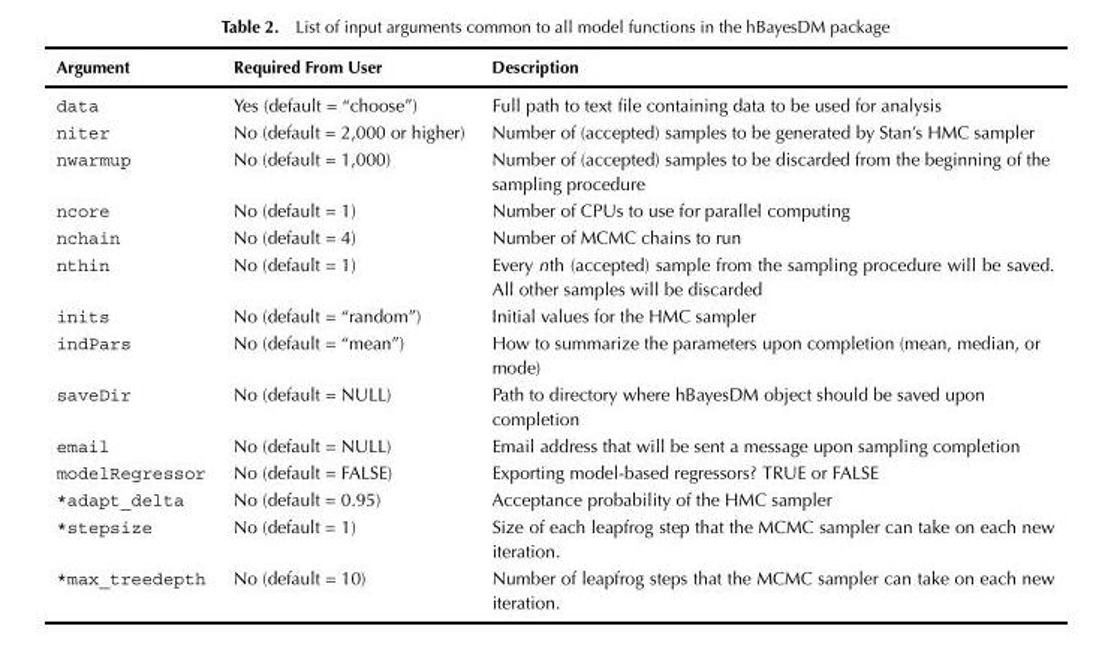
<table><thead><tr><td>Argument</td><td>Required From User</td><td>Description</td></tr></thead><tbody><tr><td>data</td><td>Yes (default = “choose”)</td><td>Full path to text file containing data to be used for analysis</td></tr><tr><td>niter</td><td>No (default = 2,000 or higher)</td><td>Number of (accepted) samples to be generated by Stan’s HMC sampler</td></tr><tr><td>nwarmup</td><td>No (default = 1,000)</td><td>Number of (accepted) samples to be discarded from the beginning of the sampling procedure</td></tr><tr><td>ncore</td><td>No (default = 1)</td><td>Number of CPUs to use for parallel computing</td></tr><tr><td>nchain</td><td>No (default = 4)</td><td>Number of MCMC chains to run</td></tr><tr><td>nthin</td><td>No (default = 1)</td><td>Every nth (accepted) sample from the sampling procedure will be saved. All other samples will be discarded</td></tr><tr><td>inits</td><td>No (default = “random”)</td><td>Initial values for the HMC sampler</td></tr><tr><td>indPars</td><td>No (default = “mean”)</td><td>How to summarize the parameters upon completion (mean, median, or mode)</td></tr><tr><td>saveDir</td><td>No (default = NULL)</td><td>Path to directory where hBayesDM object should be saved upon completion</td></tr><tr><td>email</td><td>No (default = NULL)</td><td>Email address that will be sent a message upon sampling completion</td></tr><tr><td>modelRegressor</td><td>No (default = FALSE)</td><td>Exporting model-based regressors? TRUE or FALSE</td></tr><tr><td>*adapt_delta</td><td>No (default = 0.95)</td><td>Acceptance probability of the HMC sampler</td></tr><tr><td>*stepsize</td><td>No (default = 1)</td><td>Size of each leapfrog step that the MCMC sampler can take on each new iteration.</td></tr><tr><td>*max_treedepth</td><td>No (default = 10)</td><td>Number of leapfrog steps that the MCMC sampler can take on each new iteration.</td></tr></tbody></table>